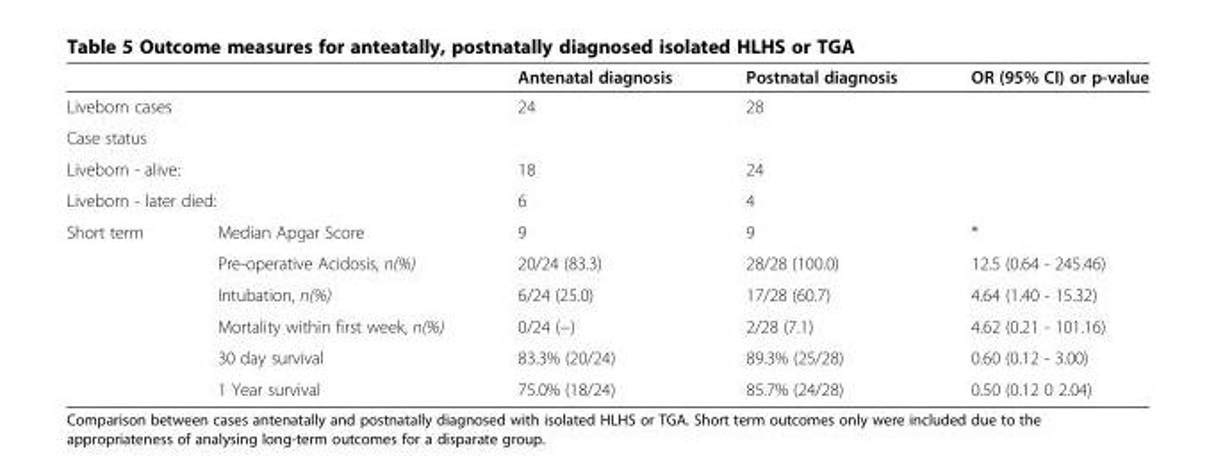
<table><thead><tr><td></td><td></td><td>Antenatal diagnosis</td><td>Postnatal diagnosis</td><td>OR (95% CI) or p-value</td></tr></thead><tbody><tr><td colspan="2">Liveborn cases</td><td>24</td><td>28</td><td></td></tr><tr><td colspan="5">Case status</td></tr><tr><td colspan="2">Liveborn - alive:</td><td>18</td><td>24</td><td></td></tr><tr><td colspan="2">Liveborn - later died:</td><td>6</td><td>4</td><td></td></tr><tr><td rowspan="6">Short term</td><td>Median Apgar Score</td><td>9</td><td>9</td><td>*</td></tr><tr><td>Pre-operative Acidosis, n(%)</td><td>20/24 (83.3)</td><td>28/28 (100.0)</td><td>12.5 (0.64 - 245.46)</td></tr><tr><td>Intubation, n(%)</td><td>6/24 (25.0)</td><td>17/28 (60.7)</td><td>4.64 (1.40 - 15.32)</td></tr><tr><td>Mortality within first week, n(%)</td><td>0/24 (−)</td><td>2/28 (7.1)</td><td>4.62 (0.21 - 101.16)</td></tr><tr><td>30 day survival</td><td>83.3% (20/24)</td><td>89.3% (25/28)</td><td>0.60 (0.12 - 3.00)</td></tr><tr><td>1 Year survival</td><td>75.0% (18/24)</td><td>85.7% (24/28)</td><td>0.50 (0.12 0 2.04)</td></tr></tbody></table>